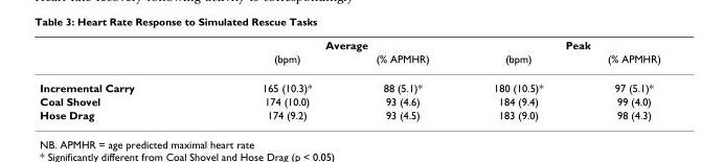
<table><thead><tr><td rowspan="2"></td><td colspan="2">Average</td><td colspan="2">Peak</td></tr><tr><td>(bpm)</td><td>(% APMHR)</td><td>(bpm)</td><td>(% APMHR)</td></tr></thead><tbody><tr><td>Incremental Carry</td><td>165 (10.3)*</td><td>88 (5.1)*</td><td>180 (10.5)*</td><td>97 (5.1)*</td></tr><tr><td>Coal Shovel</td><td>174 (10.0)</td><td>93 (4.6)</td><td>184 (9.4)</td><td>99 (4.0)</td></tr><tr><td>Hose Drag</td><td>174 (9.2)</td><td>93 (4.5)</td><td>183 (9.0)</td><td>98 (4.3)</td></tr></tbody></table>